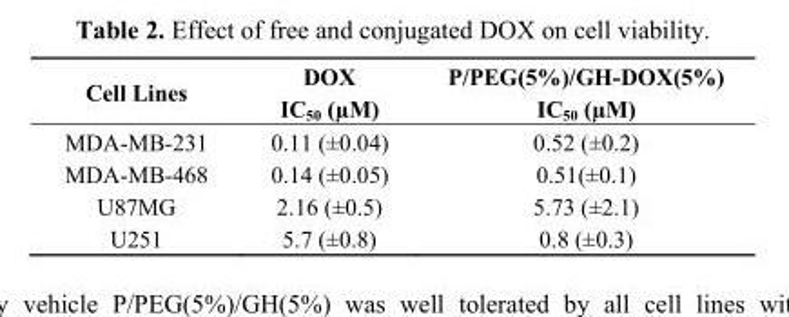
<table><thead><tr><td>Cell Lines</td><td>DOX IC<sub>50</sub> (µM)</td><td>P/PEG(5%)/GH-DOX(5%) IC<sub>50</sub> (µM)</td></tr></thead><tbody><tr><td>MDA-MB-231</td><td>0.11 (±0.04)</td><td>0.52 (±0.2)</td></tr><tr><td>MDA-MB-468</td><td>0.14 (±0.05)</td><td>0.51(±0.1)</td></tr><tr><td>U87MG</td><td>2.16 (±0.5)</td><td>5.73 (±2.1)</td></tr><tr><td>U251</td><td>5.7 (±0.8)</td><td>0.8 (±0.3)</td></tr></tbody></table>